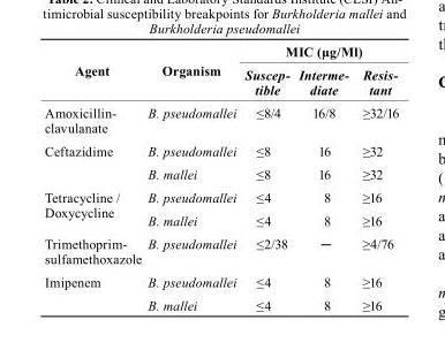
<table><thead><tr><td rowspan="2">Agent</td><td rowspan="2">organism</td><td colspan="3">MIc (µg/Ml)</td></tr><tr><td>Suscep- tible</td><td>Interme- diate</td><td>Resis- tant</td></tr></thead><tbody><tr><td>Amoxicillin- clavulanate</td><td>B. pseudomallei</td><td>≤8/4</td><td>16/8</td><td>≥32/16</td></tr><tr><td rowspan="2">Ceftazidime</td><td>B. pseudomallei</td><td>≤8</td><td>16</td><td>≥32</td></tr><tr><td>B. mallei</td><td>≤8</td><td>16</td><td>≥32</td></tr><tr><td rowspan="2">Tetracycline / Doxycycline</td><td>B. pseudomallei</td><td>≤4</td><td>8</td><td>≥16</td></tr><tr><td>B. mallei</td><td>≤4</td><td>8</td><td>≥16</td></tr><tr><td>Trimethoprim- sulfamethoxazole</td><td>B. pseudomallei</td><td>≤2/38</td><td>─</td><td>≥4/76</td></tr><tr><td rowspan="2">Imipenem</td><td>B. pseudomallei</td><td>≤4</td><td>8</td><td>≥16</td></tr><tr><td>B. mallei</td><td>≤4</td><td>8</td><td>≥16</td></tr></tbody></table>